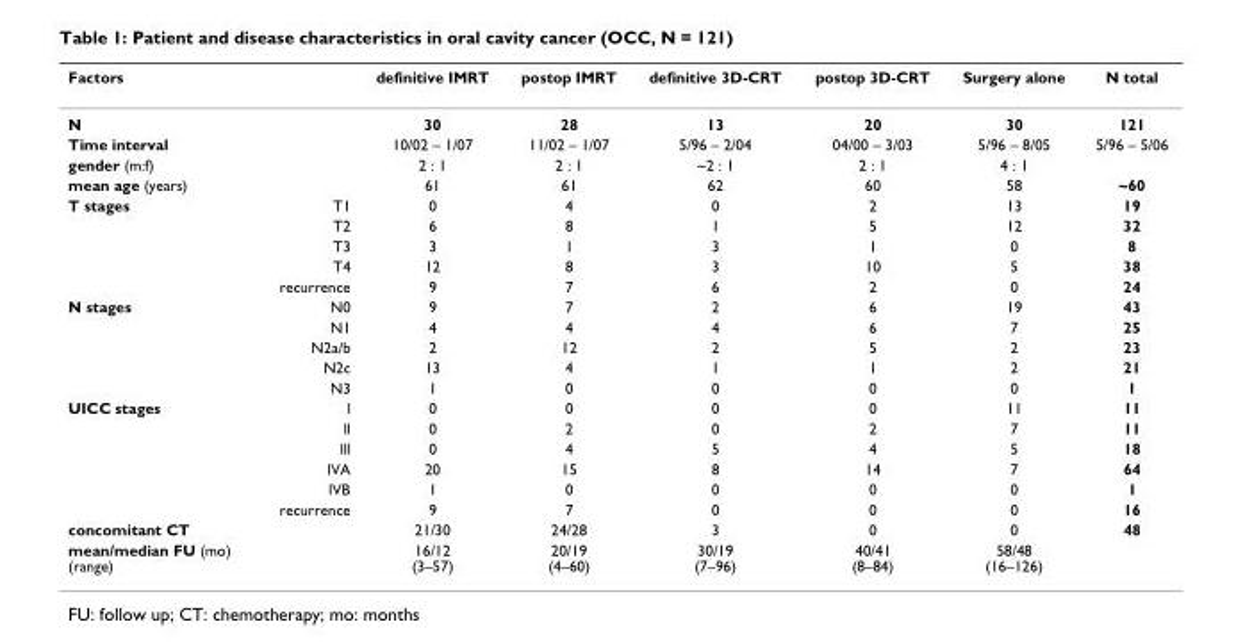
<table><thead><tr><td>Factors</td><td></td><td>definitive IMRT</td><td>postop IMRT</td><td>definitive 3D-CRT</td><td>postop 3D-CRT</td><td>Surgery alone</td><td>N total</td></tr></thead><tbody><tr><td>N</td><td></td><td>30</td><td>28</td><td>13</td><td>20</td><td>30</td><td>121</td></tr><tr><td>Time interval</td><td></td><td>10/02 – 1/07</td><td>11/02 – 1/07</td><td>5/96 – 2/04</td><td>04/00 – 3/03</td><td>5/96 – 8/05</td><td>5/96 – 5/06</td></tr><tr><td>gender (m:f)</td><td></td><td>2 : 1</td><td>2 : 1</td><td>~2 : 1</td><td>2 : 1</td><td>4 : 1</td><td></td></tr><tr><td>mean age (years)</td><td></td><td>61</td><td>61</td><td>62</td><td>60</td><td>58</td><td>~60</td></tr><tr><td rowspan="5">T stages</td><td>T1</td><td>0</td><td>4</td><td>0</td><td>2</td><td>13</td><td>19</td></tr><tr><td>T2</td><td>6</td><td>8</td><td>1</td><td>5</td><td>12</td><td>32</td></tr><tr><td>T3</td><td>3</td><td>1</td><td>3</td><td>1</td><td>0</td><td>8</td></tr><tr><td>T4</td><td>12</td><td>8</td><td>3</td><td>10</td><td>5</td><td>38</td></tr><tr><td>recurrence</td><td>9</td><td>7</td><td>6</td><td>2</td><td>0</td><td>24</td></tr><tr><td rowspan="5">N stages</td><td>N0</td><td>9</td><td>7</td><td>2</td><td>6</td><td>19</td><td>43</td></tr><tr><td>N1</td><td>4</td><td>4</td><td>4</td><td>6</td><td>7</td><td>25</td></tr><tr><td>N2a/b</td><td>2</td><td>12</td><td>2</td><td>5</td><td>2</td><td>23</td></tr><tr><td>N2c</td><td>13</td><td>4</td><td>1</td><td>1</td><td>2</td><td>21</td></tr><tr><td>N3</td><td>1</td><td>0</td><td>0</td><td>0</td><td>0</td><td>1</td></tr><tr><td rowspan="6">UICC stages</td><td>l</td><td>0</td><td>0</td><td>0</td><td>0</td><td>11</td><td>11</td></tr><tr><td>ll</td><td>0</td><td>2</td><td>0</td><td>2</td><td>7</td><td>11</td></tr><tr><td>lll</td><td>0</td><td>4</td><td>5</td><td>4</td><td>5</td><td>18</td></tr><tr><td>lVA</td><td>20</td><td>15</td><td>8</td><td>14</td><td>7</td><td>64</td></tr><tr><td>lVB</td><td>1</td><td>0</td><td>0</td><td>0</td><td>0</td><td>1</td></tr><tr><td>recurrence</td><td>9</td><td>7</td><td>0</td><td>0</td><td>0</td><td>16</td></tr><tr><td>concomitant CT</td><td></td><td>21/30</td><td>24/28</td><td>3</td><td>0</td><td>0</td><td>48</td></tr><tr><td>mean/median FU (mo) (range)</td><td></td><td>16/12 (3–57)</td><td>20/19 (4–60)</td><td>30/19 (7–96)</td><td>40/41 (8–84)</td><td>58/48 (16–126)</td><td></td></tr></tbody></table>